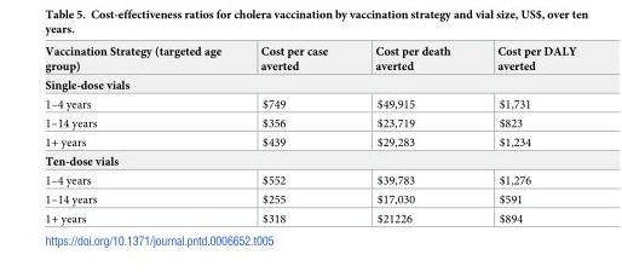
<table><thead><tr><td>Vaccination Strategy (targeted age group)</td><td>Cost per case averted</td><td>Cost per death averted</td><td>Cost per DALY averted</td></tr></thead><tbody><tr><td colspan="4">Single-dose vials</td></tr><tr><td>1–4 years</td><td>$749</td><td>$49,915</td><td>$1,731</td></tr><tr><td>1–14 years</td><td>$356</td><td>$23,719</td><td>$823</td></tr><tr><td>1+ years</td><td>$439</td><td>$29,283</td><td>$1,234</td></tr><tr><td colspan="4">Ten-dose vials</td></tr><tr><td>1–4 years</td><td>$552</td><td>$39,783</td><td>$1,276</td></tr><tr><td>1–14 years</td><td>$255</td><td>$17,030</td><td>$591</td></tr><tr><td>1+ years</td><td>$318</td><td>$21226</td><td>$894</td></tr></tbody></table>